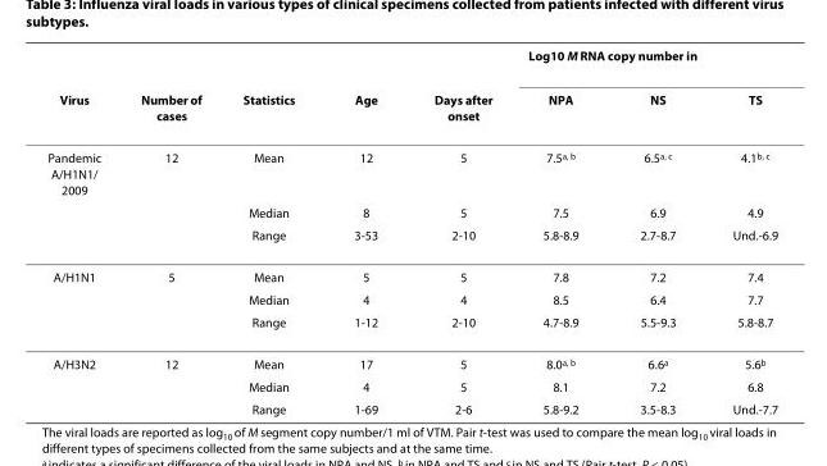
<table><thead><tr><td rowspan="2">Virus</td><td rowspan="2">Number of cases</td><td rowspan="2">Statistics</td><td rowspan="2">Age</td><td rowspan="2">Days after onset</td><td colspan="3">Log<sub>10</sub> M RNA copy number in</td></tr><tr><td>NPA</td><td>NS</td><td>TS</td></tr></thead><tbody><tr><td rowspan="3">Pandemic A/H1N1/ 2009</td><td>12</td><td>Mean</td><td>12</td><td>5</td><td>7.5<sup>a, b</sup></td><td>6.5<sup>a, c</sup></td><td>4.1<sup>b, c</sup></td></tr><tr><td></td><td>Median</td><td>8</td><td>5</td><td>7.5</td><td>6.9</td><td>4.9</td></tr><tr><td></td><td>Range</td><td>3-53</td><td>2-10</td><td>5.8-8.9</td><td>2.7-8.7</td><td>Und.-6.9</td></tr><tr><td rowspan="3">A/H1N1</td><td>5</td><td>Mean</td><td>5</td><td>5</td><td>7.8</td><td>7.2</td><td>7.4</td></tr><tr><td></td><td>Median</td><td>4</td><td>4</td><td>8.5</td><td>6.4</td><td>7.7</td></tr><tr><td></td><td>Range</td><td>1-12</td><td>2-10</td><td>4.7-8.9</td><td>5.5-9.3</td><td>5.8-8.7</td></tr><tr><td rowspan="3">A/H3N2</td><td>12</td><td>Mean</td><td>17</td><td>5</td><td>8.0<sup>a, b</sup></td><td>6.6<sup>a</sup></td><td>5.6<sup>b</sup></td></tr><tr><td></td><td>Median</td><td>4</td><td>5</td><td>8.1</td><td>7.2</td><td>6.8</td></tr><tr><td></td><td>Range</td><td>1-69</td><td>2-6</td><td>5.8-9.2</td><td>3.5-8.3</td><td>Und.-7.7</td></tr></tbody></table>